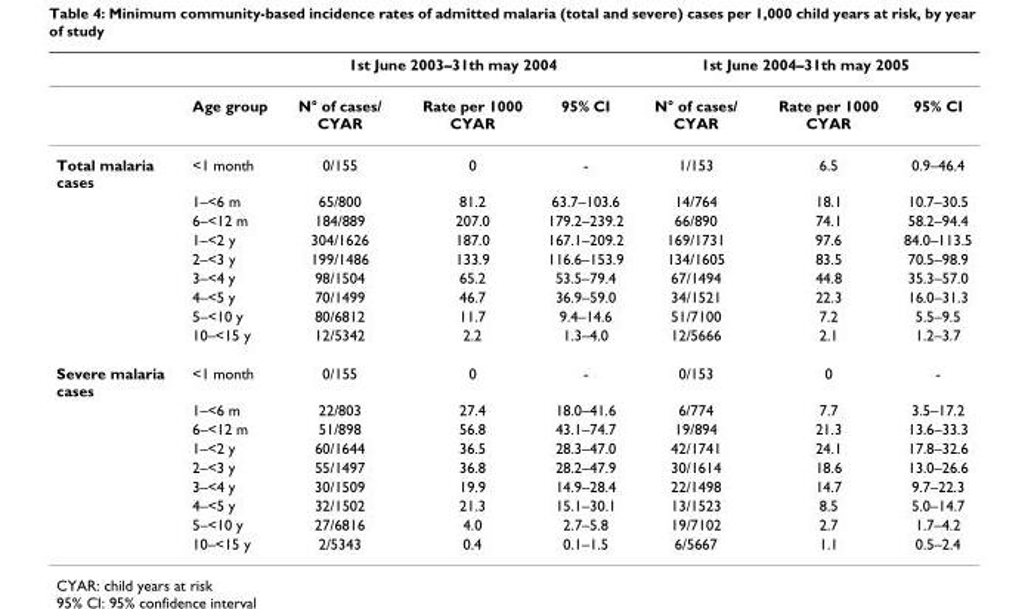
<table><thead><tr><td rowspan="2"></td><td rowspan="2">Age group</td><td colspan="3">1st June 2003–31th may 2004</td><td colspan="3">1st June 2004–31th may 2005</td></tr><tr><td>N° of cases/ CYAR</td><td>Rate per 1000 CYAR</td><td>95% CI</td><td>N° of cases/ CYAR</td><td>Rate per 1000 CYAR</td><td>95% CI</td></tr></thead><tbody><tr><td rowspan="9">Total malaria cases</td><td>&lt;1 month</td><td>0/155</td><td>0</td><td>-</td><td>1/153</td><td>6.5</td><td>0.9–46.4</td></tr><tr><td>1–&lt;6 m</td><td>65/800</td><td>81.2</td><td>63.7–103.6</td><td>14/764</td><td>18.1</td><td>10.7–30.5</td></tr><tr><td>6–&lt;12 m</td><td>184/889</td><td>207.0</td><td>179.2–239.2</td><td>66/890</td><td>74.1</td><td>58.2–94.4</td></tr><tr><td>1–&lt;2 y</td><td>304/1626</td><td>187.0</td><td>167.1–209.2</td><td>169/1731</td><td>97.6</td><td>84.0–113.5</td></tr><tr><td>2–&lt;3 y</td><td>199/1486</td><td>133.9</td><td>116.6–153.9</td><td>134/1605</td><td>83.5</td><td>70.5–98.9</td></tr><tr><td>3–&lt;4 y</td><td>98/1504</td><td>65.2</td><td>53.5–79.4</td><td>67/1494</td><td>44.8</td><td>35.3–57.0</td></tr><tr><td>4–&lt;5 y</td><td>70/1499</td><td>46.7</td><td>36.9–59.0</td><td>34/1521</td><td>22.3</td><td>16.0–31.3</td></tr><tr><td>5–&lt;10 y</td><td>80/6812</td><td>11.7</td><td>9.4–14.6</td><td>51/7100</td><td>7.2</td><td>5.5–9.5</td></tr><tr><td>10–&lt;15 y</td><td>12/5342</td><td>2.2</td><td>1.3–4.0</td><td>12/5666</td><td>2.1</td><td>1.2–3.7</td></tr><tr><td rowspan="9">Severe malaria cases</td><td>&lt;1 month</td><td>0/155</td><td>0</td><td>-</td><td>0/153</td><td>0</td><td>-</td></tr><tr><td>1–&lt;6 m</td><td>22/803</td><td>27.4</td><td>18.0–41.6</td><td>6/774</td><td>7.7</td><td>3.5–17.2</td></tr><tr><td>6–&lt;12 m</td><td>51/898</td><td>56.8</td><td>43.1–74.7</td><td>19/894</td><td>21.3</td><td>13.6–33.3</td></tr><tr><td>1–&lt;2 y</td><td>60/1644</td><td>36.5</td><td>28.3–47.0</td><td>42/1741</td><td>24.1</td><td>17.8–32.6</td></tr><tr><td>2–&lt;3 y</td><td>55/1497</td><td>36.8</td><td>28.2–47.9</td><td>30/1614</td><td>18.6</td><td>13.0–26.6</td></tr><tr><td>3–&lt;4 y</td><td>30/1509</td><td>19.9</td><td>14.9–28.4</td><td>22/1498</td><td>14.7</td><td>9.7–22.3</td></tr><tr><td>4–&lt;5 y</td><td>32/1502</td><td>21.3</td><td>15.1–30.1</td><td>13/1523</td><td>8.5</td><td>5.0–14.7</td></tr><tr><td>5–&lt;10 y</td><td>27/6816</td><td>4.0</td><td>2.7–5.8</td><td>19/7102</td><td>2.7</td><td>1.7–4.2</td></tr><tr><td>10–&lt;15 y</td><td>2/5343</td><td>0.4</td><td>0.1–1.5</td><td>6/5667</td><td>1.1</td><td>0.5–2.4</td></tr></tbody></table>